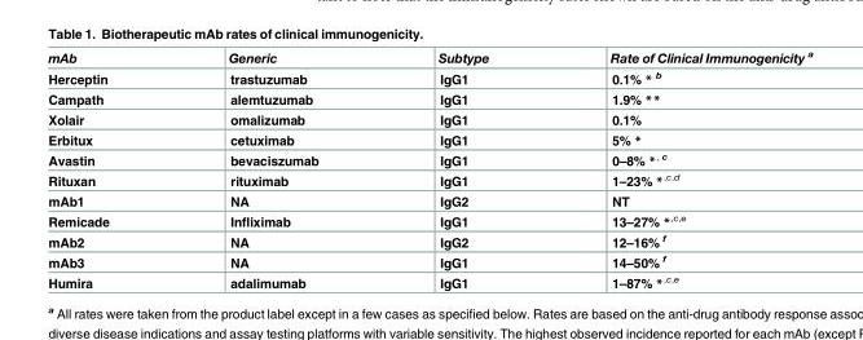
<table><thead><tr><td>mAb</td><td>Generic</td><td>Subtype</td><td>Rate of Clinical Immunogenicity <sup>a</sup></td></tr></thead><tbody><tr><td>Herceptin</td><td>trastuzumab</td><td>IgG1</td><td>0.1% * <sup>b</sup></td></tr><tr><td>Campath</td><td>alemtuzumab</td><td>IgG1</td><td>1.9% **</td></tr><tr><td>Xolair</td><td>omalizumab</td><td>IgG1</td><td>0.1%</td></tr><tr><td>Erbitux</td><td>cetuximab</td><td>IgG1</td><td>5% *</td></tr><tr><td>Avastin</td><td>bevaciszumab</td><td>IgG1</td><td>0–8% *<sup>, c</sup></td></tr><tr><td>Rituxan</td><td>rituximab</td><td>IgG1</td><td>1–23% *<sup>,c,d</sup></td></tr><tr><td>mAb1</td><td>NA</td><td>IgG2</td><td>NT</td></tr><tr><td>Remicade</td><td>Infliximab</td><td>IgG1</td><td>13–27% *<sup>,c,e</sup></td></tr><tr><td>mAb2</td><td>NA</td><td>IgG2</td><td>12–16% <sup>f</sup></td></tr><tr><td>mAb3</td><td>NA</td><td>IgG1</td><td>14–50% <sup>f</sup></td></tr><tr><td>Humira</td><td>adalimumab</td><td>IgG1</td><td>1–87% *<sup>,c,e</sup></td></tr></tbody></table>